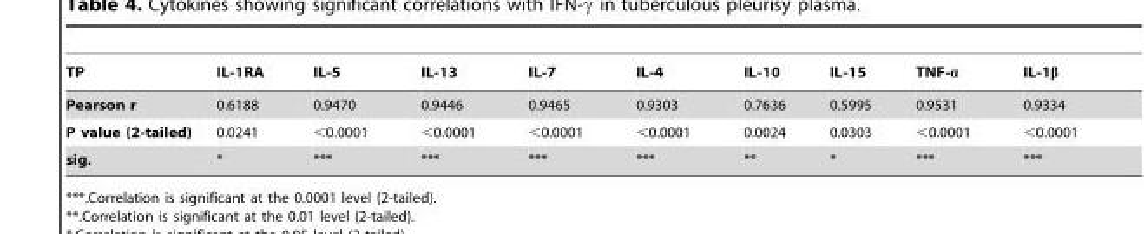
<table><thead><tr><td>TP</td><td>IL-1RA</td><td>IL-5</td><td>IL-13</td><td>IL-7</td><td>IL-4</td><td>IL-10</td><td>IL-15</td><td>TNF-α</td><td>IL-1β</td></tr></thead><tbody><tr><td>Pearson r</td><td>0.6188</td><td>0.9470</td><td>0.9446</td><td>0.9465</td><td>0.9303</td><td>0.7636</td><td>0.5995</td><td>0.9531</td><td>0.9334</td></tr><tr><td>P value (2-tailed)</td><td>0.0241</td><td>&lt;0.0001</td><td>&lt;0.0001</td><td>&lt;0.0001</td><td>&lt;0.0001</td><td>0.0024</td><td>0.0303</td><td>&lt;0.0001</td><td>&lt;0.0001</td></tr><tr><td>sig.</td><td>*</td><td>***</td><td>***</td><td>***</td><td>***</td><td>**</td><td>*</td><td>***</td><td>***</td></tr></tbody></table>